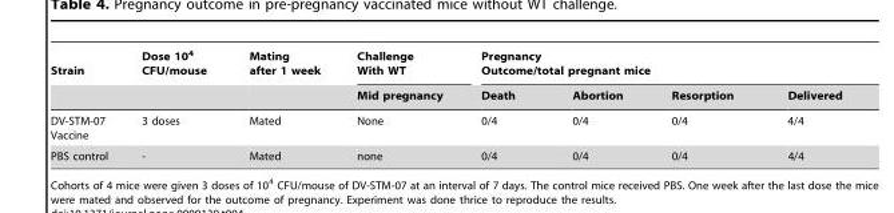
<table><thead><tr><td rowspan="2">Strain</td><td rowspan="2">Dose 10<sup>4</sup> CFU/mouse</td><td rowspan="2">Mating after 1 week</td><td rowspan="2">Challenge With WT Mid pregnancy</td><td colspan="4">Pregnancy Outcome/total pregnant mice</td></tr><tr><td>Death</td><td>Abortion</td><td>Resorption</td><td>Delivered</td></tr></thead><tbody><tr><td>DV-STM-07 Vaccine</td><td>3 doses</td><td>Mated</td><td>None</td><td>0/4</td><td>0/4</td><td>0/4</td><td>4/4</td></tr><tr><td>PBS control</td><td>-</td><td>Mated</td><td>none</td><td>0/4</td><td>0/4</td><td>0/4</td><td>4/4</td></tr></tbody></table>